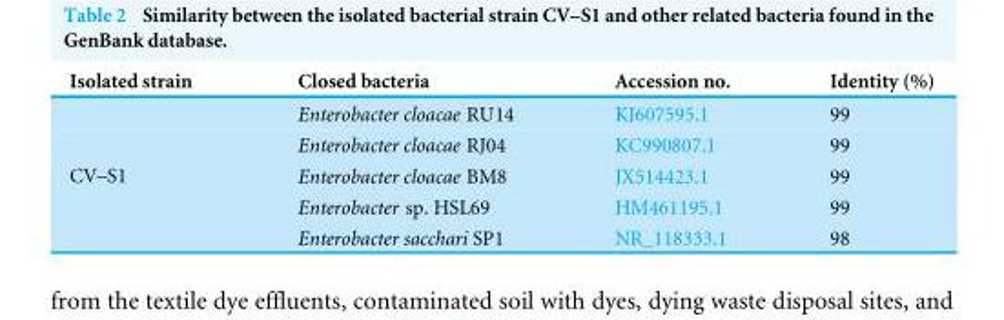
<table><thead><tr><td>Isolated strain</td><td>Closed bacteria</td><td>Accession no.</td><td>Identity (%)</td></tr></thead><tbody><tr><td rowspan="5">CV–S1</td><td>Enterobacter cloacae RU14</td><td>KJ607595.1</td><td>99</td></tr><tr><td>Enterobacter cloacae RJ04</td><td>KC990807.1</td><td>99</td></tr><tr><td>Enterobacter cloacae BM8</td><td>JX514423.1</td><td>99</td></tr><tr><td>Enterobacter sp. HSL69</td><td>HM461195.1</td><td>99</td></tr><tr><td>Enterobacter sacchari SP1</td><td>NR_118333.1</td><td>98</td></tr></tbody></table>